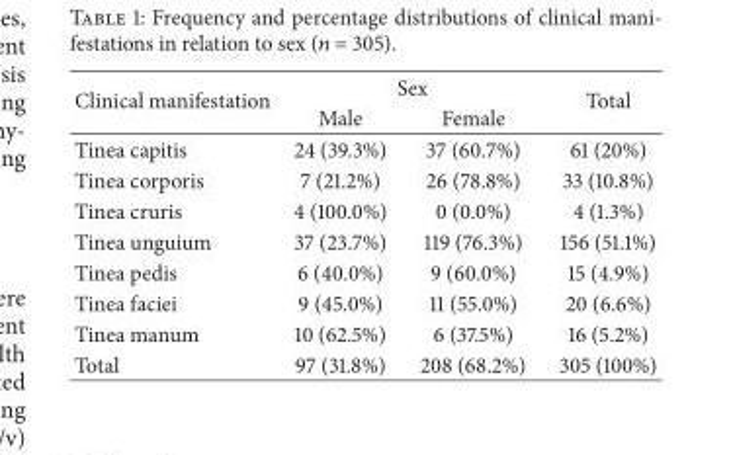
<table><thead><tr><td rowspan="2">Clinical manifestation</td><td colspan="2">Sex</td><td rowspan="2">Total</td></tr><tr><td>Male</td><td>Female</td></tr></thead><tbody><tr><td>Tinea capitis</td><td>24 (39.3%)</td><td>37 (60.7%)</td><td>61 (20%)</td></tr><tr><td>Tinea corporis</td><td>7 (21.2%)</td><td>26 (78.8%)</td><td>33 (10.8%)</td></tr><tr><td>Tinea cruris</td><td>4 (100.0%)</td><td>0 (0.0%)</td><td>4 (1.3%)</td></tr><tr><td>Tinea unguium</td><td>37 (23.7%)</td><td>119 (76.3%)</td><td>156 (51.1%)</td></tr><tr><td>Tinea pedis</td><td>6 (40.0%)</td><td>9 (60.0%)</td><td>15 (4.9%)</td></tr><tr><td>Tinea faciei</td><td>9 (45.0%)</td><td>11 (55.0%)</td><td>20 (6.6%)</td></tr><tr><td>Tinea manum</td><td>10 (62.5%)</td><td>6 (37.5%)</td><td>16 (5.2%)</td></tr><tr><td>Total</td><td>97 (31.8%)</td><td>208 (68.2%)</td><td>305 (100%)</td></tr></tbody></table>